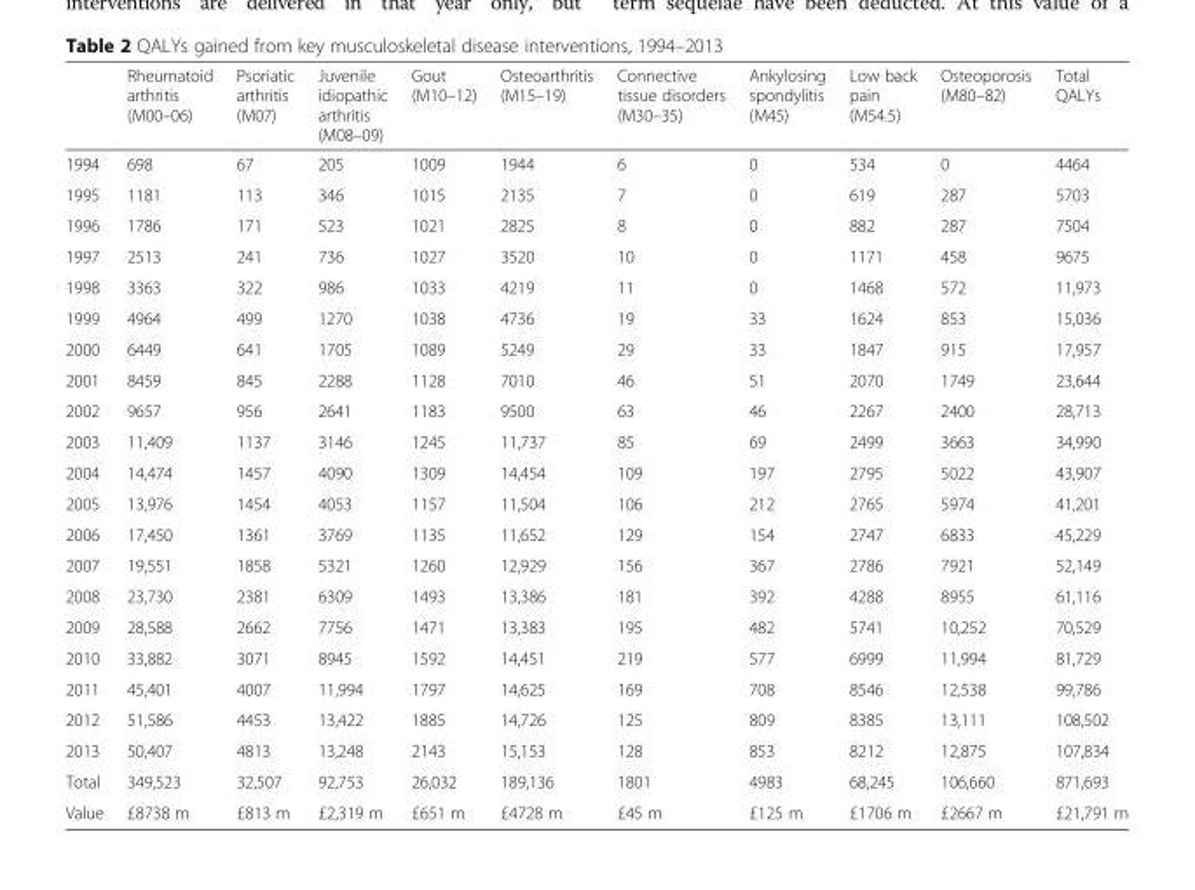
<table><thead><tr><td></td><td>Rheumatoid arthritis (M00–06)</td><td>Psoriatic arthritis (M07)</td><td>Juvenile idiopathic arthritis (M08–09)</td><td>Gout (M10–12)</td><td>Osteoarthritis (M15–19)</td><td>Connective tissue disorders (M30–35)</td><td>Ankylosing spondylitis (M45)</td><td>Low back pain (M54.5)</td><td>Osteoporosis (M80–82)</td><td>Total QALYs</td></tr></thead><tbody><tr><td>1994</td><td>698</td><td>67</td><td>205</td><td>1009</td><td>1944</td><td>6</td><td>0</td><td>534</td><td>0</td><td>4464</td></tr><tr><td>1995</td><td>1181</td><td>113</td><td>346</td><td>1015</td><td>2135</td><td>7</td><td>0</td><td>619</td><td>287</td><td>5703</td></tr><tr><td>1996</td><td>1786</td><td>171</td><td>523</td><td>1021</td><td>2825</td><td>8</td><td>0</td><td>882</td><td>287</td><td>7504</td></tr><tr><td>1997</td><td>2513</td><td>241</td><td>736</td><td>1027</td><td>3520</td><td>10</td><td>0</td><td>1171</td><td>458</td><td>9675</td></tr><tr><td>1998</td><td>3363</td><td>322</td><td>986</td><td>1033</td><td>4219</td><td>11</td><td>0</td><td>1468</td><td>572</td><td>11,973</td></tr><tr><td>1999</td><td>4964</td><td>499</td><td>1270</td><td>1038</td><td>4736</td><td>19</td><td>33</td><td>1624</td><td>853</td><td>15,036</td></tr><tr><td>2000</td><td>6449</td><td>641</td><td>1705</td><td>1089</td><td>5249</td><td>29</td><td>33</td><td>1847</td><td>915</td><td>17,957</td></tr><tr><td>2001</td><td>8459</td><td>845</td><td>2288</td><td>1128</td><td>7010</td><td>46</td><td>51</td><td>2070</td><td>1749</td><td>23,644</td></tr><tr><td>2002</td><td>9657</td><td>956</td><td>2641</td><td>1183</td><td>9500</td><td>63</td><td>46</td><td>2267</td><td>2400</td><td>28,713</td></tr><tr><td>2003</td><td>11,409</td><td>1137</td><td>3146</td><td>1245</td><td>11,737</td><td>85</td><td>69</td><td>2499</td><td>3663</td><td>34,990</td></tr><tr><td>2004</td><td>14,474</td><td>1457</td><td>4090</td><td>1309</td><td>14,454</td><td>109</td><td>197</td><td>2795</td><td>5022</td><td>43,907</td></tr><tr><td>2005</td><td>13,976</td><td>1454</td><td>4053</td><td>1157</td><td>11,504</td><td>106</td><td>212</td><td>2765</td><td>5974</td><td>41,201</td></tr><tr><td>2006</td><td>17,450</td><td>1361</td><td>3769</td><td>1135</td><td>11,652</td><td>129</td><td>154</td><td>2747</td><td>6833</td><td>45,229</td></tr><tr><td>2007</td><td>19,551</td><td>1858</td><td>5321</td><td>1260</td><td>12,929</td><td>156</td><td>367</td><td>2786</td><td>7921</td><td>52,149</td></tr><tr><td>2008</td><td>23,730</td><td>2381</td><td>6309</td><td>1493</td><td>13,386</td><td>181</td><td>392</td><td>4288</td><td>8955</td><td>61,116</td></tr><tr><td>2009</td><td>28,588</td><td>2662</td><td>7756</td><td>1471</td><td>13,383</td><td>195</td><td>482</td><td>5741</td><td>10,252</td><td>70,529</td></tr><tr><td>2010</td><td>33,882</td><td>3071</td><td>8945</td><td>1592</td><td>14,451</td><td>219</td><td>577</td><td>6999</td><td>11,994</td><td>81,729</td></tr><tr><td>2011</td><td>45,401</td><td>4007</td><td>11,994</td><td>1797</td><td>14,625</td><td>169</td><td>708</td><td>8546</td><td>12,538</td><td>99,786</td></tr><tr><td>2012</td><td>51,586</td><td>4453</td><td>13,422</td><td>1885</td><td>14,726</td><td>125</td><td>809</td><td>8385</td><td>13,111</td><td>108,502</td></tr><tr><td>2013</td><td>50,407</td><td>4813</td><td>13,248</td><td>2143</td><td>15,153</td><td>128</td><td>853</td><td>8212</td><td>12,875</td><td>107,834</td></tr><tr><td>Total</td><td>349,523</td><td>32,507</td><td>92,753</td><td>26,032</td><td>189,136</td><td>1801</td><td>4983</td><td>68,245</td><td>106,660</td><td>871,693</td></tr><tr><td>Value</td><td>£8738 m</td><td>£813 m</td><td>£2,319 m</td><td>£651 m</td><td>£4728 m</td><td>£45 m</td><td>£125 m</td><td>£1706 m</td><td>£2667 m</td><td>£21,791 m</td></tr></tbody></table>